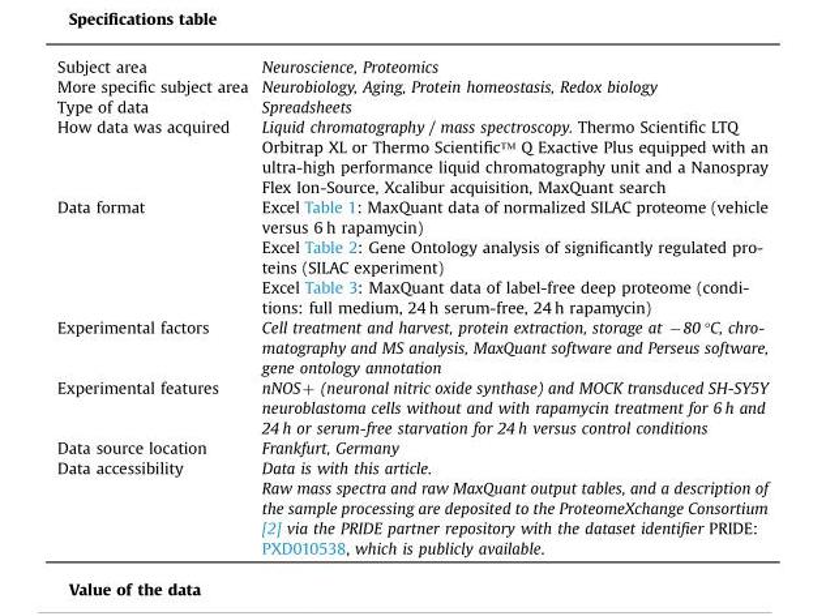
<table><tbody><tr><td>Subject area</td><td>Neuroscience, Proteomics</td></tr><tr><td>More specific subject area</td><td>Neurobiology, Aging, Protein homeostasis, Redox biology</td></tr><tr><td>Type of data</td><td>Spreadsheets</td></tr><tr><td>How data was acquired</td><td>Liquid chromatography / mass spectroscopy. Thermo Scientific LTQ Orbitrap XL or Thermo Scientific™ Q Exactive Plus equipped with an ultra-high performance liquid chromatography unit and a Nanospray Flex Ion-Source, Xcalibur acquisition, MaxQuant search</td></tr><tr><td rowspan="3">Data format</td><td>Excel Table 1: MaxQuant data of normalized SILAC proteome (vehicle versus 6 h rapamycin)</td></tr><tr><td>Excel Table 2: Gene Ontology analysis of significantly regulated pro- teins (SILAC experiment)</td></tr><tr><td>Excel Table 3: MaxQuant data of label-free deep proteome (condi- tions: full medium, 24 h serum-free, 24 h rapamycin)</td></tr><tr><td>Experimental factors</td><td>Cell treatment and harvest, protein extraction, storage at �80 °C, chro- matography and MS analysis, MaxQuant software and Perseus software, gene ontology annotation</td></tr><tr><td>Experimental features</td><td>nNOS+ (neuronal nitric oxide synthase) and MOCK transduced SH-SY5Y neuroblastoma cells without and with rapamycin treatment for 6 h and 24 h or serum-free starvation for 24 h versus control conditions</td></tr><tr><td>Data source location</td><td>Frankfurt, Germany</td></tr><tr><td rowspan="2">Data accessibility</td><td>Data is with this article.</td></tr><tr><td>Raw mass spectra and raw MaxQuant output tables, and a description of the sample processing are deposited to the ProteomeXchange Consortium [2] via the PRIDE partner repository with the dataset identifier PRIDE: PXD010538, which is publicly available.</td></tr></tbody></table>